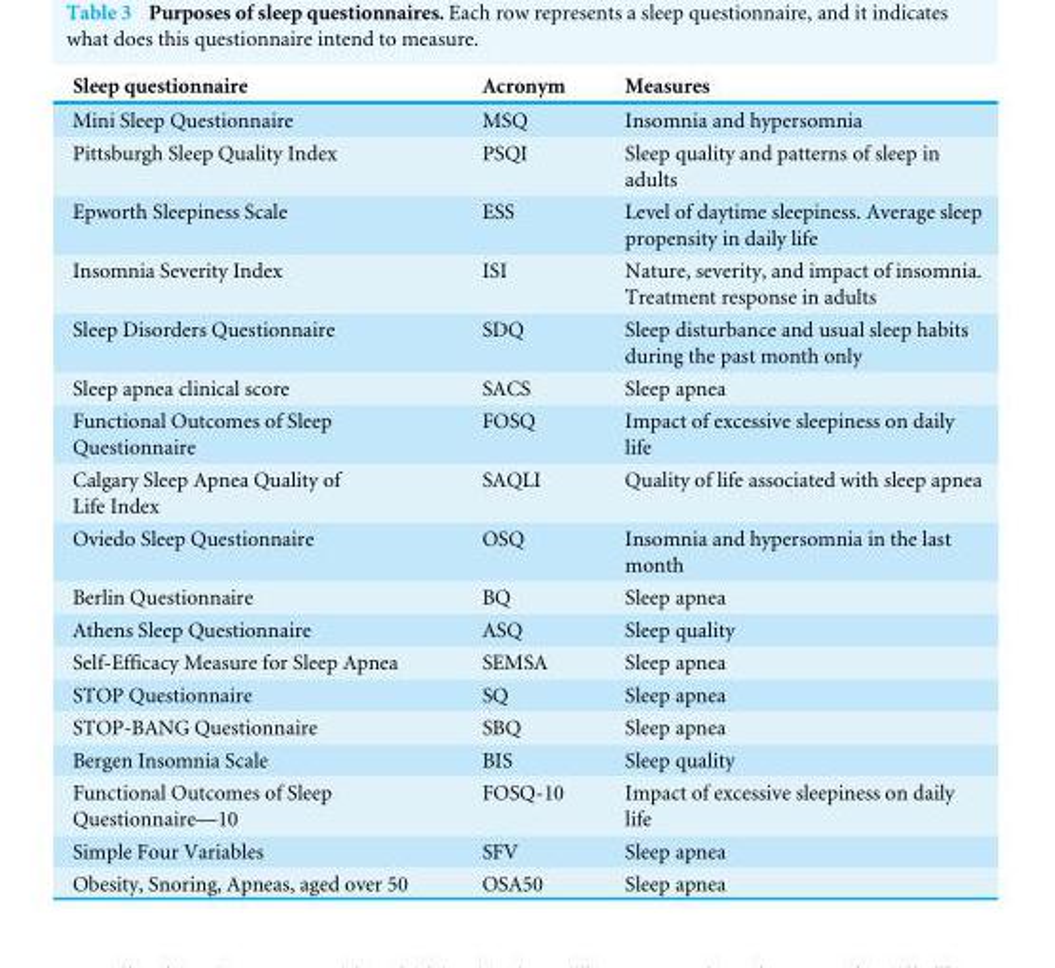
<table><thead><tr><td>Sleep questionnaire</td><td>Acronym</td><td>Measures</td></tr></thead><tbody><tr><td>Mini Sleep Questionnaire</td><td>MSQ</td><td>Insomnia and hypersomnia</td></tr><tr><td>Pittsburgh Sleep Quality Index</td><td>PSQI</td><td>Sleep quality and patterns of sleep in adults</td></tr><tr><td>Epworth Sleepiness Scale</td><td>ESS</td><td>Level of daytime sleepiness. Average sleep propensity in daily life</td></tr><tr><td>Insomnia Severity Index</td><td>ISI</td><td>Nature, severity, and impact of insomnia. Treatment response in adults</td></tr><tr><td>Sleep Disorders Questionnaire</td><td>SDQ</td><td>Sleep disturbance and usual sleep habits during the past month only</td></tr><tr><td>Sleep apnea clinical score</td><td>SACS</td><td>Sleep apnea</td></tr><tr><td>Functional Outcomes of Sleep Questionnaire</td><td>FOSQ</td><td>Impact of excessive sleepiness on daily life</td></tr><tr><td>Calgary Sleep Apnea Quality of Life Index</td><td>SAQLI</td><td>Quality of life associated with sleep apnea</td></tr><tr><td>Oviedo Sleep Questionnaire</td><td>OSQ</td><td>Insomnia and hypersomnia in the last month</td></tr><tr><td>Berlin Questionnaire</td><td>BQ</td><td>Sleep apnea</td></tr><tr><td>Athens Sleep Questionnaire</td><td>ASQ</td><td>Sleep quality</td></tr><tr><td>Self-Efficacy Measure for Sleep Apnea</td><td>SEMSA</td><td>Sleep apnea</td></tr><tr><td>STOP Questionnaire</td><td>SQ</td><td>Sleep apnea</td></tr><tr><td>STOP-BANG Questionnaire</td><td>SBQ</td><td>Sleep apnea</td></tr><tr><td>Bergen Insomnia Scale</td><td>BIS</td><td>Sleep quality</td></tr><tr><td>Functional Outcomes of Sleep Questionnaire—10</td><td>FOSQ-10</td><td>Impact of excessive sleepiness on daily life</td></tr><tr><td>Simple Four Variables</td><td>SFV</td><td>Sleep apnea</td></tr><tr><td>Obesity, Snoring, Apneas, aged over 50</td><td>OSA50</td><td>Sleep apnea</td></tr></tbody></table>